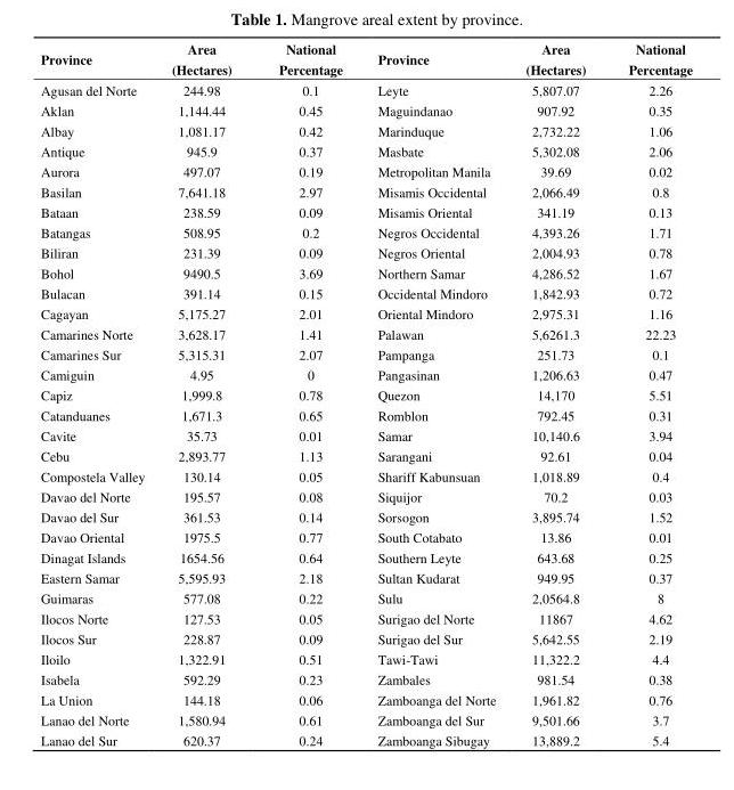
<table><thead><tr><td>Province</td><td>Area (Hectares)</td><td>National Percentage</td><td>Province</td><td>Area (Hectares)</td><td>National Percentage</td></tr></thead><tbody><tr><td>Agusan del Norte</td><td>244.98</td><td>0.1</td><td>Leyte</td><td>5,807.07</td><td>2.26</td></tr><tr><td>Aklan</td><td>1,144.44</td><td>0.45</td><td>Maguindanao</td><td>907.92</td><td>0.35</td></tr><tr><td>Albay</td><td>1,081.17</td><td>0.42</td><td>Marinduque</td><td>2,732.22</td><td>1.06</td></tr><tr><td>Antique</td><td>945.9</td><td>0.37</td><td>Masbate</td><td>5,302.08</td><td>2.06</td></tr><tr><td>Aurora</td><td>497.07</td><td>0.19</td><td>Metropolitan Manila</td><td>39.69</td><td>0.02</td></tr><tr><td>Basilan</td><td>7,641.18</td><td>2.97</td><td>Misamis Occidental</td><td>2,066.49</td><td>0.8</td></tr><tr><td>Bataan</td><td>238.59</td><td>0.09</td><td>Misamis Oriental</td><td>341.19</td><td>0.13</td></tr><tr><td>Batangas</td><td>508.95</td><td>0.2</td><td>Negros Occidental</td><td>4,393.26</td><td>1.71</td></tr><tr><td>Biliran</td><td>231.39</td><td>0.09</td><td>Negros Oriental</td><td>2,004.93</td><td>0.78</td></tr><tr><td>Bohol</td><td>9490.5</td><td>3.69</td><td>Northern Samar</td><td>4,286.52</td><td>1.67</td></tr><tr><td>Bulacan</td><td>391.14</td><td>0.15</td><td>Occidental Mindoro</td><td>1,842.93</td><td>0.72</td></tr><tr><td>Cagayan</td><td>5,175.27</td><td>2.01</td><td>Oriental Mindoro</td><td>2,975.31</td><td>1.16</td></tr><tr><td>Camarines Norte</td><td>3,628.17</td><td>1.41</td><td>Palawan</td><td>5,6261.3</td><td>22.23</td></tr><tr><td>Camarines Sur</td><td>5,315.31</td><td>2.07</td><td>Pampanga</td><td>251.73</td><td>0.1</td></tr><tr><td>Camiguin</td><td>4.95</td><td>0</td><td>Pangasinan</td><td>1,206.63</td><td>0.47</td></tr><tr><td>Capiz</td><td>1,999.8</td><td>0.78</td><td>Quezon</td><td>14,170</td><td>5.51</td></tr><tr><td>Catanduanes</td><td>1,671.3</td><td>0.65</td><td>Romblon</td><td>792.45</td><td>0.31</td></tr><tr><td>Cavite</td><td>35.73</td><td>0.01</td><td>Samar</td><td>10,140.6</td><td>3.94</td></tr><tr><td>Cebu</td><td>2,893.77</td><td>1.13</td><td>Sarangani</td><td>92.61</td><td>0.04</td></tr><tr><td>Compostela Valley</td><td>130.14</td><td>0.05</td><td>Shariff Kabunsuan</td><td>1,018.89</td><td>0.4</td></tr><tr><td>Davao del Norte</td><td>195.57</td><td>0.08</td><td>Siquijor</td><td>70.2</td><td>0.03</td></tr><tr><td>Davao del Sur</td><td>361.53</td><td>0.14</td><td>Sorsogon</td><td>3,895.74</td><td>1.52</td></tr><tr><td>Davao Oriental</td><td>1975.5</td><td>0.77</td><td>South Cotabato</td><td>13.86</td><td>0.01</td></tr><tr><td>Dinagat Islands</td><td>1654.56</td><td>0.64</td><td>Southern Leyte</td><td>643.68</td><td>0.25</td></tr><tr><td>Eastern Samar</td><td>5,595.93</td><td>2.18</td><td>Sultan Kudarat</td><td>949.95</td><td>0.37</td></tr><tr><td>Guimaras</td><td>577.08</td><td>0.22</td><td>Sulu</td><td>2,0564.8</td><td>8</td></tr><tr><td>Ilocos Norte</td><td>127.53</td><td>0.05</td><td>Surigao del Norte</td><td>11867</td><td>4.62</td></tr><tr><td>Ilocos Sur</td><td>228.87</td><td>0.09</td><td>Surigao del Sur</td><td>5,642.55</td><td>2.19</td></tr><tr><td>Iloilo</td><td>1,322.91</td><td>0.51</td><td>Tawi-Tawi</td><td>11,322.2</td><td>4.4</td></tr><tr><td>Isabela</td><td>592.29</td><td>0.23</td><td>Zambales</td><td>981.54</td><td>0.38</td></tr><tr><td>La Union</td><td>144.18</td><td>0.06</td><td>Zamboanga del Norte</td><td>1,961.82</td><td>0.76</td></tr><tr><td>Lanao del Norte</td><td>1,580.94</td><td>0.61</td><td>Zamboanga del Sur</td><td>9,501.66</td><td>3.7</td></tr><tr><td>Lanao del Sur</td><td>620.37</td><td>0.24</td><td>Zamboanga Sibugay</td><td>13,889.2</td><td>5.4</td></tr></tbody></table>